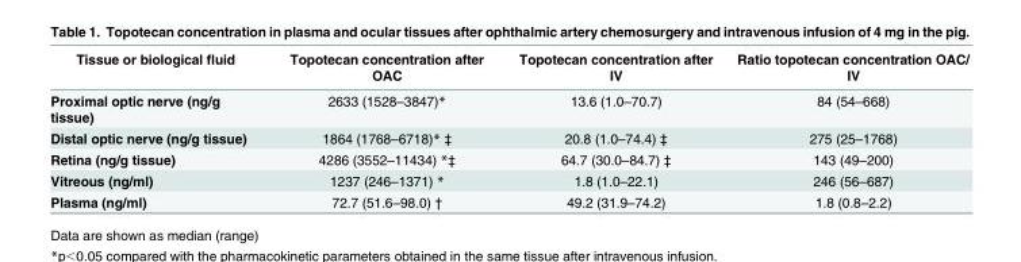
<table><thead><tr><td>Tissue or biological fluid</td><td>Topotecan concentration after OAC</td><td>Topotecan concentration after IV</td><td>Ratio topotecan concentration OAC/ IV</td></tr></thead><tbody><tr><td>Proximal optic nerve (ng/g tissue)</td><td>2633 (1528–3847)*</td><td>13.6 (1.0–70.7)</td><td>84 (54–668)</td></tr><tr><td>Distal optic nerve (ng/g tissue)</td><td>1864 (1768–6718)* ‡</td><td>20.8 (1.0–74.4) ‡</td><td>275 (25–1768)</td></tr><tr><td>Retina (ng/g tissue)</td><td>4286 (3552–11434) *‡</td><td>64.7 (30.0–84.7) ‡</td><td>143 (49–200)</td></tr><tr><td>Vitreous (ng/ml)</td><td>1237 (246–1371) *</td><td>1.8 (1.0–22.1)</td><td>246 (56–687)</td></tr><tr><td>Plasma (ng/ml)</td><td>72.7 (51.6–98.0) †</td><td>49.2 (31.9–74.2)</td><td>1.8 (0.8–2.2)</td></tr></tbody></table>